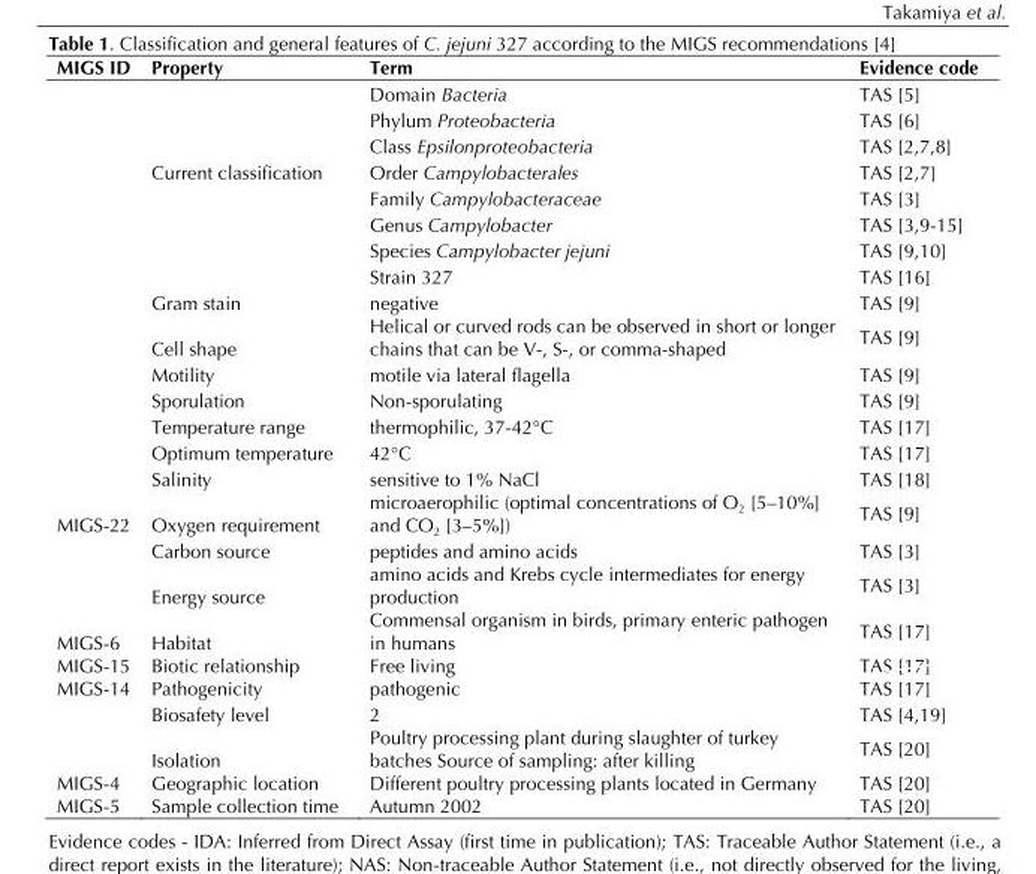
<table><thead><tr><td>MIGS ID</td><td>Property</td><td>Term</td><td>Evidence code</td></tr></thead><tbody><tr><td></td><td></td><td>Domain Bacteria</td><td>TAS [5]</td></tr><tr><td></td><td></td><td>Phylum Proteobacteria</td><td>TAS [6]</td></tr><tr><td></td><td></td><td>Class Epsilonproteobacteria</td><td>TAS [2,7,8]</td></tr><tr><td></td><td>Current classification</td><td>Order Campylobacterales</td><td>TAS [2,7]</td></tr><tr><td></td><td></td><td>Family Campylobacteraceae</td><td>TAS [3]</td></tr><tr><td></td><td></td><td>Genus Campylobacter</td><td>TAS [3,9-15]</td></tr><tr><td></td><td></td><td>Species Campylobacter jejuni</td><td>TAS [9,10]</td></tr><tr><td></td><td></td><td>Strain 327</td><td>TAS [16]</td></tr><tr><td></td><td>Gram stain</td><td>negative</td><td>TAS [9]</td></tr><tr><td></td><td>Cell shape</td><td>Helical or curved rods can be observed in short or longer chains that can be V-, S-, or comma-shaped</td><td>TAS [9]</td></tr><tr><td></td><td>Motility</td><td>motile via lateral flagella</td><td>TAS [9]</td></tr><tr><td></td><td>Sporulation</td><td>Non-sporulating</td><td>TAS [9]</td></tr><tr><td></td><td>Temperature range</td><td>thermophilic, 37-42°C</td><td>TAS [17]</td></tr><tr><td></td><td>Optimum temperature</td><td>42°C</td><td>TAS [17]</td></tr><tr><td></td><td>Salinity</td><td>sensitive to 1% NaCl</td><td>TAS [18]</td></tr><tr><td rowspan="3">MIGS-22</td><td>Oxygen requirement</td><td>microaerophilic (optimal concentrations of O<sub>2</sub> [5–10%] and CO<sub>2</sub> [3–5%])</td><td>TAS [9]</td></tr><tr><td>Carbon source</td><td>peptides and amino acids</td><td>TAS [3]</td></tr><tr><td>Energy source</td><td>amino acids and Krebs cycle intermediates for energy production</td><td>TAS [3]</td></tr><tr><td>MIGS-6</td><td>Habitat</td><td>Commensal organism in birds, primary enteric pathogen in humans</td><td>TAS [17]</td></tr><tr><td>MIGS-15</td><td>Biotic relationship</td><td>Free living</td><td>TAS [17]</td></tr><tr><td rowspan="3">MIGS-14</td><td>Pathogenicity</td><td>pathogenic</td><td>TAS [17]</td></tr><tr><td>Biosafety level</td><td>2</td><td>TAS [4,19]</td></tr><tr><td>Isolation</td><td>Poultry processing plant during slaughter of turkey batches Source of sampling: after killing</td><td>TAS [20]</td></tr><tr><td>MIGS-4</td><td>Geographic location</td><td>Different poultry processing plants located in Germany</td><td>TAS [20]</td></tr><tr><td>MIGS-5</td><td>Sample collection time</td><td>Autumn 2002</td><td>TAS [20]</td></tr></tbody></table>